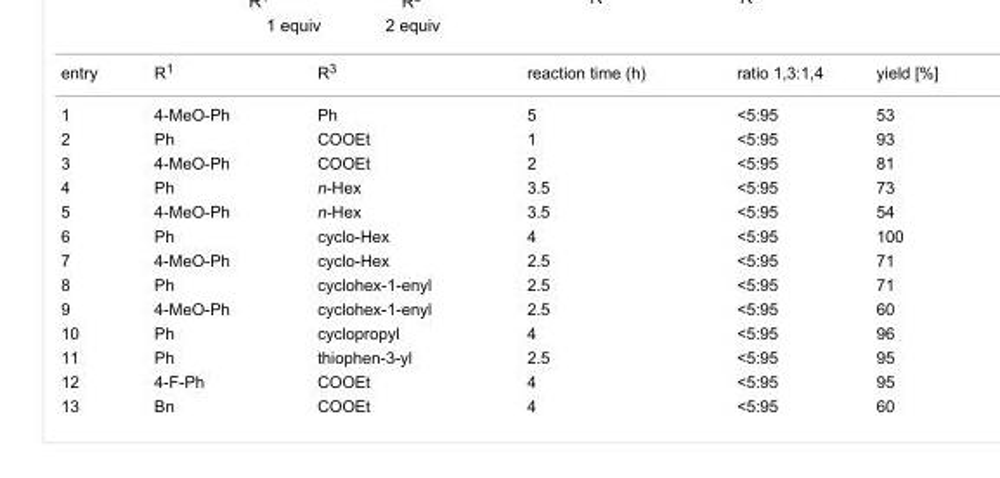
<table><tbody><tr><td>entry</td><td>R<sup>1</sup></td><td>R<sup>3</sup></td><td>reaction time (h)</td><td>ratio 1,3:1,4</td><td>yield [%]</td></tr><tr><td>1</td><td>4-MeO-Ph</td><td>Ph</td><td>5</td><td>&lt;5:95</td><td>53</td></tr><tr><td>2</td><td>Ph</td><td>COOEt</td><td>1</td><td>&lt;5:95</td><td>93</td></tr><tr><td>3</td><td>4-MeO-Ph</td><td>COOEt</td><td>2</td><td>&lt;5:95</td><td>81</td></tr><tr><td>4</td><td>Ph</td><td>n-Hex</td><td>3.5</td><td>&lt;5:95</td><td>73</td></tr><tr><td>5</td><td>4-MeO-Ph</td><td>n-Hex</td><td>3.5</td><td>&lt;5:95</td><td>54</td></tr><tr><td>6</td><td>Ph</td><td>cyclo-Hex</td><td>4</td><td>&lt;5:95</td><td>100</td></tr><tr><td>7</td><td>4-MeO-Ph</td><td>cyclo-Hex</td><td>2.5</td><td>&lt;5:95</td><td>71</td></tr><tr><td>8</td><td>Ph</td><td>cyclohex-1-enyl</td><td>2.5</td><td>&lt;5:95</td><td>71</td></tr><tr><td>9</td><td>4-MeO-Ph</td><td>cyclohex-1-enyl</td><td>2.5</td><td>&lt;5:95</td><td>60</td></tr><tr><td>10</td><td>Ph</td><td>cyclopropyl</td><td>4</td><td>&lt;5:95</td><td>96</td></tr><tr><td>11</td><td>Ph</td><td>thiophen-3-yl</td><td>2.5</td><td>&lt;5:95</td><td>95</td></tr><tr><td>12</td><td>4-F-Ph</td><td>COOEt</td><td>4</td><td>&lt;5:95</td><td>95</td></tr><tr><td>13</td><td>Bn</td><td>COOEt</td><td>4</td><td>&lt;5:95</td><td>60</td></tr></tbody></table>